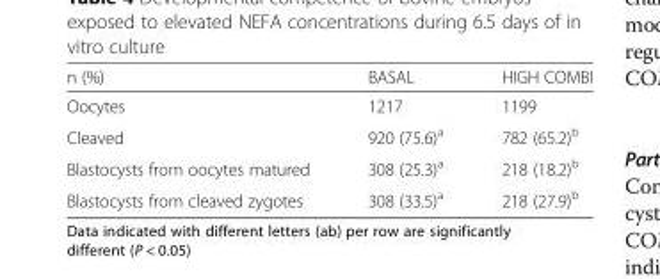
<table><thead><tr><td>n (%)</td><td>BASAL</td><td>HIGH COMBI</td></tr></thead><tbody><tr><td>Oocytes</td><td>1217</td><td>1199</td></tr><tr><td>Cleaved</td><td>920 (75.6)<sup>a</sup></td><td>782 (65.2)<sup>b</sup></td></tr><tr><td>Blastocysts from oocytes matured</td><td>308 (25.3)<sup>a</sup></td><td>218 (18.2)<sup>b</sup></td></tr><tr><td>Blastocysts from cleaved zygotes</td><td>308 (33.5)<sup>a</sup></td><td>218 (27.9)<sup>b</sup></td></tr></tbody></table>